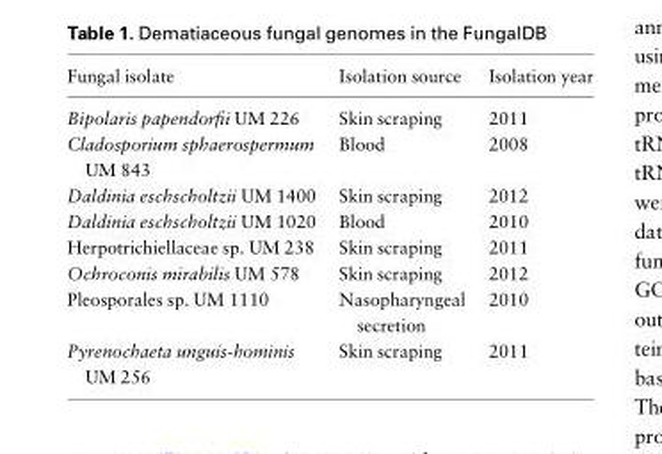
<table><thead><tr><td>Fungal isolate</td><td>Isolation source</td><td>Isolation year</td></tr></thead><tbody><tr><td>Bipolaris papendorfii UM 226</td><td>Skin scraping</td><td>2011</td></tr><tr><td>Cladosporium sphaerospermum UM 843</td><td>Blood</td><td>2008</td></tr><tr><td>Daldinia eschscholtzii UM 1400</td><td>Skin scraping</td><td>2012</td></tr><tr><td>Daldinia eschscholtzii UM 1020</td><td>Blood</td><td>2010</td></tr><tr><td>Herpotrichiellaceae sp. UM 238</td><td>Skin scraping</td><td>2011</td></tr><tr><td>Ochroconis mirabilis UM 578</td><td>Skin scraping</td><td>2012</td></tr><tr><td>Pleosporales sp. UM 1110</td><td>Nasopharyngeal secretion</td><td>2010</td></tr><tr><td>Pyrenochaeta unguis-hominis UM 256</td><td>Skin scraping</td><td>2011</td></tr></tbody></table>